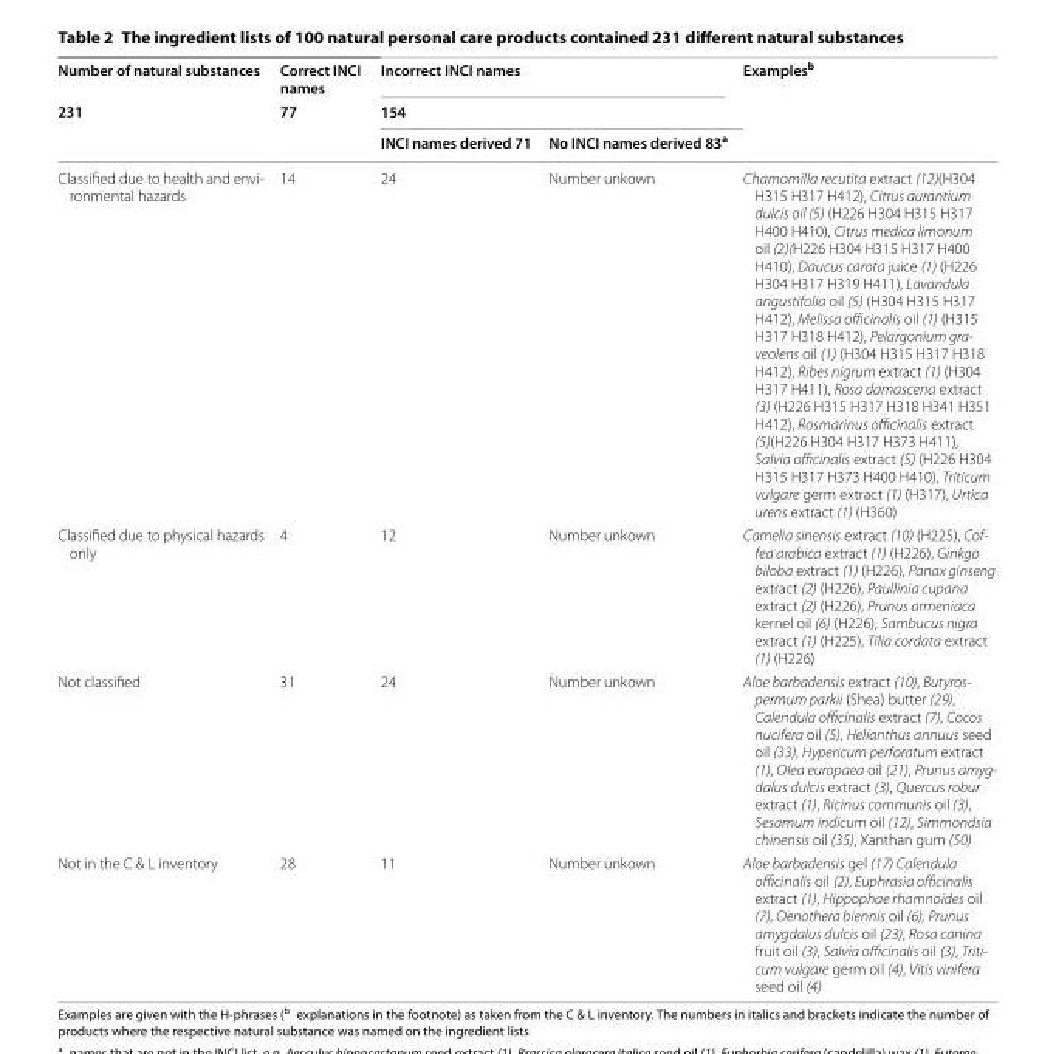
<table><thead><tr><td rowspan="3">Number of natural substances 231</td><td rowspan="3">Correct INCI names 77</td><td rowspan="2" colspan="2">Incorrect INCI names 154</td><td rowspan="3">Examples<sup>b</sup></td></tr><tr></tr><tr><td>INCI names derived 71</td><td>No INCI names derived 83<sup>a</sup></td></tr></thead><tbody><tr><td>Classified due to health and envi- ronmental hazards</td><td>14</td><td>24</td><td>Number unkown</td><td>Chamomilla recutita extract (12)(H304 H315 H317 H412), Citrus aurantium dulcis oil (5) (H226 H304 H315 H317 H400 H410), Citrus medica limonum oil (2)(H226 H304 H315 H317 H400 H410), Daucus carota juice (1) (H226 H304 H317 H319 H411), Lavandula angustifolia oil (5) (H304 H315 H317 H412), Melissa officinalis oil (1) (H315 H317 H318 H412), Pelargonium gra- veolens oil (1) (H304 H315 H317 H318 H412), Ribes nigrum extract (1) (H304 H317 H411), Rosa damascena extract (3) (H226 H315 H317 H318 H341 H351 H412), Rosmarinus officinalis extract (5)(H226 H304 H317 H373 H411), Salvia officinalis extract (5) (H226 H304 H315 H317 H373 H400 H410), Triticum vulgare germ extract (1) (H317), Urtica urens extract (1) (H360)</td></tr><tr><td>Classified due to physical hazards only</td><td>4</td><td>12</td><td>Number unkown</td><td>Camelia sinensis extract (10) (H225), Cof- fea arabica extract (1) (H226), Ginkgo biloba extract (1) (H226), Panax ginseng extract (2) (H226), Paullinia cupana extract (2) (H226), Prunus armeniaca kernel oil (6) (H226), Sambucus nigra extract (1) (H225), Tilia cordata extract (1) (H226)</td></tr><tr><td>Not classified</td><td>31</td><td>24</td><td>Number unkown</td><td>Aloe barbadensis extract (10), Butyros- permum parkii (Shea) butter (29), Calendula officinalis extract (7), Cocos nucifera oil (5), Helianthus annuus seed oil (33), Hypericum perforatum extract (1), Olea europaea oil (21), Prunus amyg- dalus dulcis extract (3), Quercus robur extract (1), Ricinus communis oil (3), Sesamum indicum oil (12), Simmondsia chinensis oil (35), Xanthan gum (50)</td></tr><tr><td>Not in the C &amp; L inventory</td><td>28</td><td>11</td><td>Number unkown</td><td>Aloe barbadensis gel (17) Calendula officinalis oil (2), Euphrasia officinalis extract (1), Hippophae rhamnoides oil (7), Oenothera biennis oil (6), Prunus amygdalus dulcis oil (23), Rosa canina fruit oil (3), Salvia officinalis oil (3), Triti- cum vulgare germ oil (4), Vitis vinifera seed oil (4)</td></tr></tbody></table>